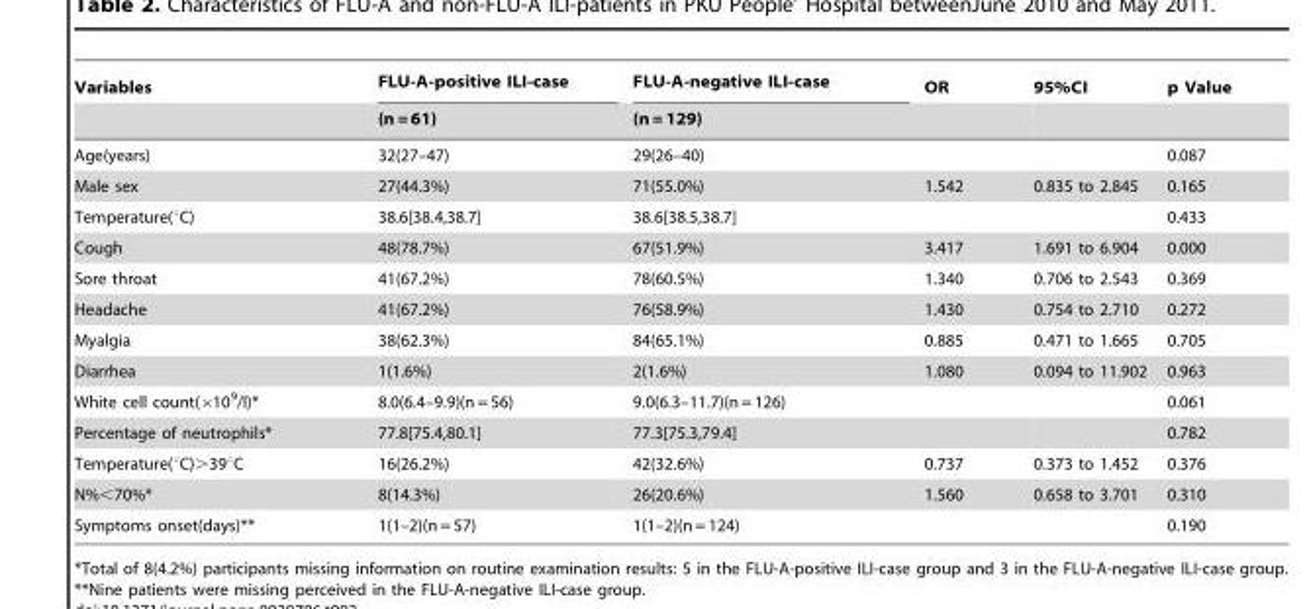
<table><thead><tr><td rowspan="2">Variables</td><td rowspan="2">FLU-A-positive ILI-case (n = 61)</td><td rowspan="2">FLU-A-negative ILI-case (n = 129)</td><td rowspan="2">OR</td><td rowspan="2">95%CI</td><td rowspan="2">p Value</td></tr><tr></tr></thead><tbody><tr><td>Age(years)</td><td>32(27–47)</td><td>29(26–40)</td><td></td><td></td><td>0.087</td></tr><tr><td>Male sex</td><td>27(44.3%)</td><td>71(55.0%)</td><td>1.542</td><td>0.835 to 2.845</td><td>0.165</td></tr><tr><td>Temperature(°C)</td><td>38.6[38.4,38.7]</td><td>38.6[38.5,38.7]</td><td></td><td></td><td>0.433</td></tr><tr><td>Cough</td><td>48(78.7%)</td><td>67(51.9%)</td><td>3.417</td><td>1.691 to 6.904</td><td>0.000</td></tr><tr><td>Sore throat</td><td>41(67.2%)</td><td>78(60.5%)</td><td>1.340</td><td>0.706 to 2.543</td><td>0.369</td></tr><tr><td>Headache</td><td>41(67.2%)</td><td>76(58.9%)</td><td>1.430</td><td>0.754 to 2.710</td><td>0.272</td></tr><tr><td>Myalgia</td><td>38(62.3%)</td><td>84(65.1%)</td><td>0.885</td><td>0.471 to 1.665</td><td>0.705</td></tr><tr><td>Diarrhea</td><td>1(1.6%)</td><td>2(1.6%)</td><td>1.080</td><td>0.094 to 11.902</td><td>0.963</td></tr><tr><td>White cell count(×10<sup>9</sup>/l)*</td><td>8.0(6.4–9.9)(n = 56)</td><td>9.0(6.3–11.7)(n = 126)</td><td></td><td></td><td>0.061</td></tr><tr><td>Percentage of neutrophils*</td><td>77.8[75.4,80.1]</td><td>77.3[75.3,79.4]</td><td></td><td></td><td>0.782</td></tr><tr><td>Temperature(°C)&gt;39°C</td><td>16(26.2%)</td><td>42(32.6%)</td><td>0.737</td><td>0.373 to 1.452</td><td>0.376</td></tr><tr><td>N%&lt;70%*</td><td>8(14.3%)</td><td>26(20.6%)</td><td>1.560</td><td>0.658 to 3.701</td><td>0.310</td></tr><tr><td>Symptoms onset(days)**</td><td>1(1–2)(n = 57)</td><td>1(1–2)(n = 124)</td><td></td><td></td><td>0.190</td></tr></tbody></table>